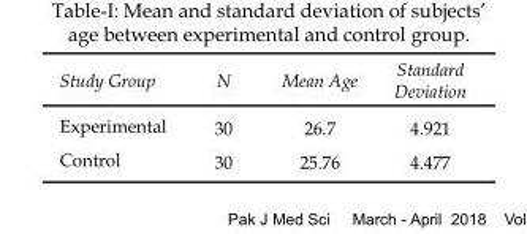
<table><thead><tr><td>Study Group</td><td>N</td><td>Mean Age</td><td>Standard Deviation</td></tr></thead><tbody><tr><td>Experimental</td><td>30</td><td>26.7</td><td>4.921</td></tr><tr><td>Control</td><td>30</td><td>25.76</td><td>4.477</td></tr></tbody></table>